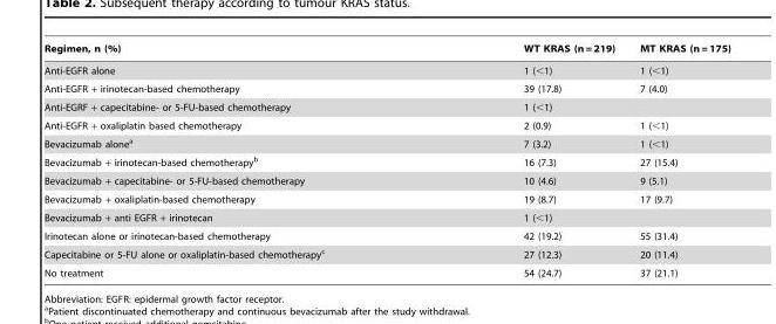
<table><thead><tr><td>Regimen, n (%)</td><td>WT KRAS (n = 219)</td><td>MT KRAS (n = 175)</td></tr></thead><tbody><tr><td>Anti-EGFR alone</td><td>1 (&lt;1)</td><td>1 (&lt;1)</td></tr><tr><td>Anti-EGFR + irinotecan-based chemotherapy</td><td>39 (17.8)</td><td>7 (4.0)</td></tr><tr><td>Anti-EGRF + capecitabine- or 5-FU-based chemotherapy</td><td>1 (&lt;1)</td><td></td></tr><tr><td>Anti-EGFR + oxaliplatin based chemotherapy</td><td>2 (0.9)</td><td>1 (&lt;1)</td></tr><tr><td>Bevacizumab alone<sup>a</sup></td><td>7 (3.2)</td><td>1 (&lt;1)</td></tr><tr><td>Bevacizumab + irinotecan-based chemotherapy<sup>b</sup></td><td>16 (7.3)</td><td>27 (15.4)</td></tr><tr><td>Bevacizumab + capecitabine- or 5-FU-based chemotherapy</td><td>10 (4.6)</td><td>9 (5.1)</td></tr><tr><td>Bevacizumab + oxaliplatin-based chemotherapy</td><td>19 (8.7)</td><td>17 (9.7)</td></tr><tr><td>Bevacizumab + anti EGFR + irinotecan</td><td>1 (&lt;1)</td><td></td></tr><tr><td>Irinotecan alone or irinotecan-based chemotherapy</td><td>42 (19.2)</td><td>55 (31.4)</td></tr><tr><td>Capecitabine or 5-FU alone or oxaliplatin-based chemotherapy<sup>c</sup></td><td>27 (12.3)</td><td>20 (11.4)</td></tr><tr><td>No treatment</td><td>54 (24.7)</td><td>37 (21.1)</td></tr></tbody></table>